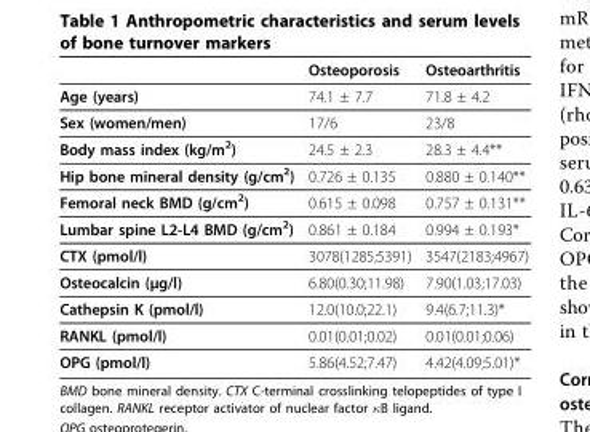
<table><thead><tr><td></td><td>Osteoporosis</td><td>Osteoarthritis</td></tr></thead><tbody><tr><td>Age (years)</td><td>74.1 ± 7.7</td><td>71.8 ± 4.2</td></tr><tr><td>Sex (women/men)</td><td>17/6</td><td>23/8</td></tr><tr><td>Body mass index (kg/m<sup>2</sup>)</td><td>24.5 ± 2.3</td><td>28.3 ± 4.4**</td></tr><tr><td>Hip bone mineral density (g/cm<sup>2</sup>)</td><td>0.726 ± 0.135</td><td>0.880 ± 0.140**</td></tr><tr><td>Femoral neck BMD (g/cm<sup>2</sup>)</td><td>0.615 ± 0.098</td><td>0.757 ± 0.131**</td></tr><tr><td>Lumbar spine L2-L4 BMD (g/cm<sup>2</sup>)</td><td>0.861 ± 0.184</td><td>0.994 ± 0.193*</td></tr><tr><td>CTX (pmol/l)</td><td>3078(1285;5391)</td><td>3547(2183;4967)</td></tr><tr><td>Osteocalcin (μg/l)</td><td>6.80(0.30;11.98)</td><td>7.90(1.03;17.03)</td></tr><tr><td>Cathepsin K (pmol/l)</td><td>12.0(10.0;22.1)</td><td>9.4(6.7;11.3)*</td></tr><tr><td>RANKL (pmol/l)</td><td>0.01(0.01;0.02)</td><td>0.01(0.01;0.06)</td></tr><tr><td>OPG (pmol/l)</td><td>5.86(4.52;7.47)</td><td>4.42(4.09;5.01)*</td></tr></tbody></table>